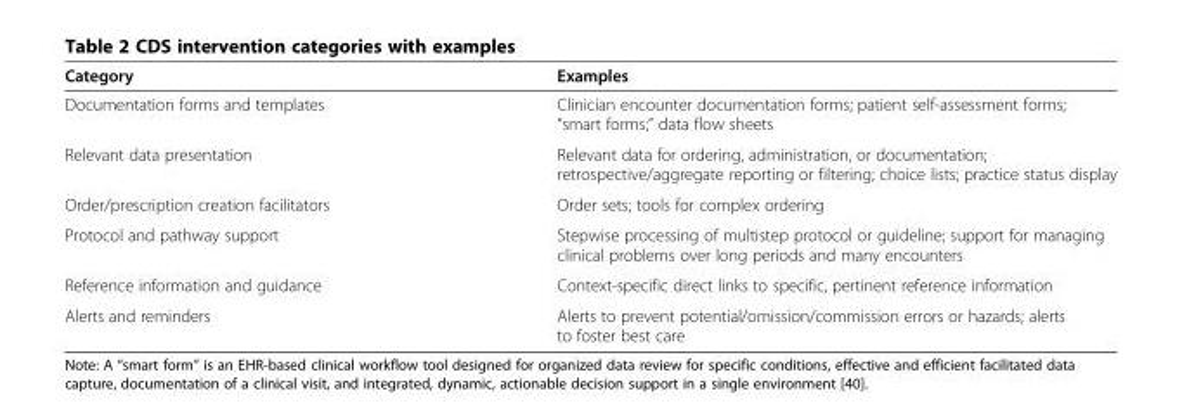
<table><thead><tr><td>Category</td><td>Examples</td></tr></thead><tbody><tr><td>Documentation forms and templates</td><td>Clinician encounter documentation forms; patient self-assessment forms; “smart forms;” data flow sheets</td></tr><tr><td>Relevant data presentation</td><td>Relevant data for ordering, administration, or documentation; retrospective/aggregate reporting or filtering; choice lists; practice status display</td></tr><tr><td>Order/prescription creation facilitators</td><td>Order sets; tools for complex ordering</td></tr><tr><td>Protocol and pathway support</td><td>Stepwise processing of multistep protocol or guideline; support for managing clinical problems over long periods and many encounters</td></tr><tr><td>Reference information and guidance</td><td>Context-specific direct links to specific, pertinent reference information</td></tr><tr><td>Alerts and reminders</td><td>Alerts to prevent potential/omission/commission errors or hazards; alerts to foster best care</td></tr></tbody></table>